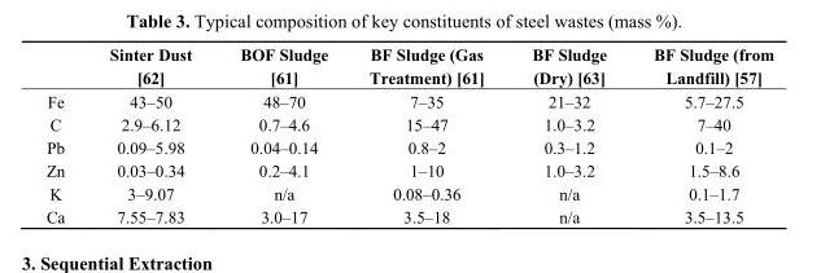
<table><thead><tr><td></td><td>Sinter Dust [62]</td><td>BOF Sludge [61]</td><td>BF Sludge (Gas Treatment) [61]</td><td>BF Sludge (Dry) [63]</td><td>BF Sludge (from Landfill) [57]</td></tr></thead><tbody><tr><td>Fe</td><td>43–50</td><td>48–70</td><td>7–35</td><td>21–32</td><td>5.7–27.5</td></tr><tr><td>C</td><td>2.9–6.12</td><td>0.7–4.6</td><td>15–47</td><td>1.0–3.2</td><td>7–40</td></tr><tr><td>Pb</td><td>0.09–5.98</td><td>0.04–0.14</td><td>0.8–2</td><td>0.3–1.2</td><td>0.1–2</td></tr><tr><td>Zn</td><td>0.03–0.34</td><td>0.2–4.1</td><td>1–10</td><td>1.0–3.2</td><td>1.5–8.6</td></tr><tr><td>K</td><td>3–9.07</td><td>n/a</td><td>0.08–0.36</td><td>n/a</td><td>0.1–1.7</td></tr><tr><td>Ca</td><td>7.55–7.83</td><td>3.0–17</td><td>3.5–18</td><td>n/a</td><td>3.5–13.5</td></tr></tbody></table>